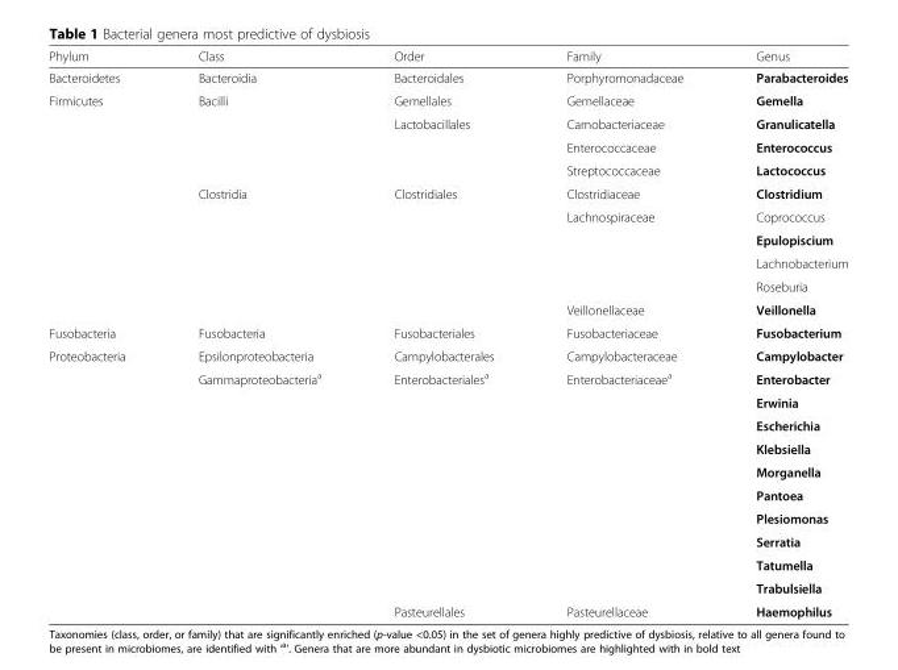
<table><thead><tr><td>Phylum</td><td>Class</td><td>Order</td><td>Family</td><td>Genus</td></tr></thead><tbody><tr><td>Bacteroidetes</td><td>Bacteroidia</td><td>Bacteroidales</td><td>Porphyromonadaceae</td><td>Parabacteroides</td></tr><tr><td rowspan="10">Firmicutes</td><td rowspan="4">Bacilli</td><td>Gemellales</td><td>Gemellaceae</td><td>Gemella</td></tr><tr><td rowspan="3">Lactobacillales</td><td>Carnobacteriaceae</td><td>Granulicatella</td></tr><tr><td>Enterococcaceae</td><td>Enterococcus</td></tr><tr><td>Streptococcaceae</td><td>Lactococcus</td></tr><tr><td rowspan="6">Clostridia</td><td rowspan="6">Clostridiales</td><td>Clostridiaceae</td><td>Clostridium</td></tr><tr><td rowspan="4">Lachnospiraceae</td><td>Coprococcus</td></tr><tr><td>Epulopiscium</td></tr><tr><td>Lachnobacterium</td></tr><tr><td>Roseburia</td></tr><tr><td>Veillonellaceae</td><td>Veillonella</td></tr><tr><td>Fusobacteria</td><td>Fusobacteria</td><td>Fusobacteriales</td><td>Fusobacteriaceae</td><td>Fusobacterium</td></tr><tr><td rowspan="12">Proteobacteria</td><td>Epsilonproteobacteria</td><td>Campylobacterales</td><td>Campylobacteraceae</td><td>Campylobacter</td></tr><tr><td rowspan="11">Gammaproteobacteria<sup>a</sup></td><td rowspan="10">Enterobacteriales<sup>a</sup></td><td rowspan="10">Enterobacteriaceae<sup>a</sup></td><td>Enterobacter</td></tr><tr><td>Erwinia</td></tr><tr><td>Escherichia</td></tr><tr><td>Klebsiella</td></tr><tr><td>Morganella</td></tr><tr><td>Pantoea</td></tr><tr><td>Plesiomonas</td></tr><tr><td>Serratia</td></tr><tr><td>Tatumella</td></tr><tr><td>Trabulsiella</td></tr><tr><td>Pasteurellales</td><td>Pasteurellaceae</td><td>Haemophilus</td></tr></tbody></table>